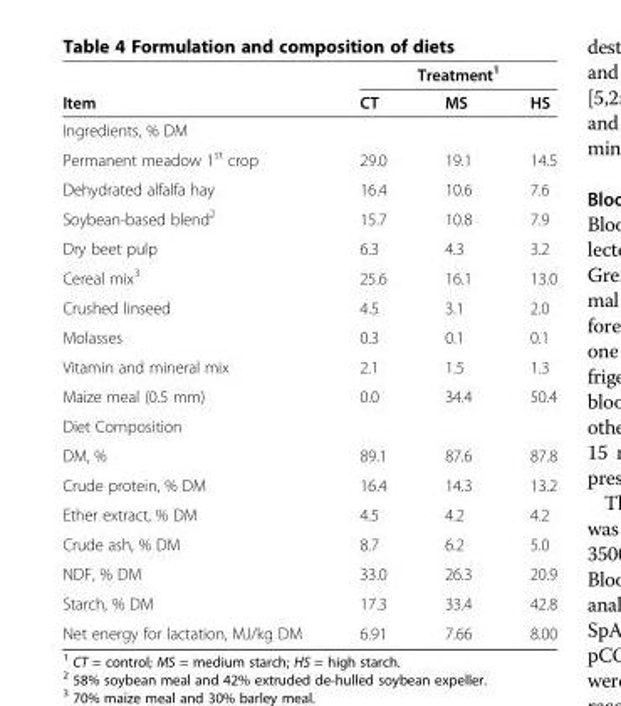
<table><thead><tr><td rowspan="2">Item</td><td colspan="2">Treatment<sup>1</sup></td><td rowspan="2">HS</td></tr><tr><td>CT</td><td>MS</td></tr></thead><tbody><tr><td colspan="4">Ingredients, % DM</td></tr><tr><td>Permanent meadow 1<sup>st</sup> crop</td><td>29.0</td><td>19.1</td><td>14.5</td></tr><tr><td>Dehydrated alfalfa hay</td><td>16.4</td><td>10.6</td><td>7.6</td></tr><tr><td>Soybean-based blend<sup>2</sup></td><td>15.7</td><td>10.8</td><td>7.9</td></tr><tr><td>Dry beet pulp</td><td>6.3</td><td>4.3</td><td>3.2</td></tr><tr><td>Cereal mix<sup>3</sup></td><td>25.6</td><td>16.1</td><td>13.0</td></tr><tr><td>Crushed linseed</td><td>4.5</td><td>3.1</td><td>2.0</td></tr><tr><td>Molasses</td><td>0.3</td><td>0.1</td><td>0.1</td></tr><tr><td>Vitamin and mineral mix</td><td>2.1</td><td>1.5</td><td>1.3</td></tr><tr><td>Maize meal (0.5 mm)</td><td>0.0</td><td>34.4</td><td>50.4</td></tr><tr><td colspan="4">Diet Composition</td></tr><tr><td>DM, %</td><td>89.1</td><td>87.6</td><td>87.8</td></tr><tr><td>Crude protein, % DM</td><td>16.4</td><td>14.3</td><td>13.2</td></tr><tr><td>Ether extract, % DM</td><td>4.5</td><td>4.2</td><td>4.2</td></tr><tr><td>Crude ash, % DM</td><td>8.7</td><td>6.2</td><td>5.0</td></tr><tr><td>NDF, % DM</td><td>33.0</td><td>26.3</td><td>20.9</td></tr><tr><td>Starch, % DM</td><td>17.3</td><td>33.4</td><td>42.8</td></tr><tr><td>Net energy for lactation, MJ/kg DM</td><td>6.91</td><td>7.66</td><td>8.00</td></tr></tbody></table>